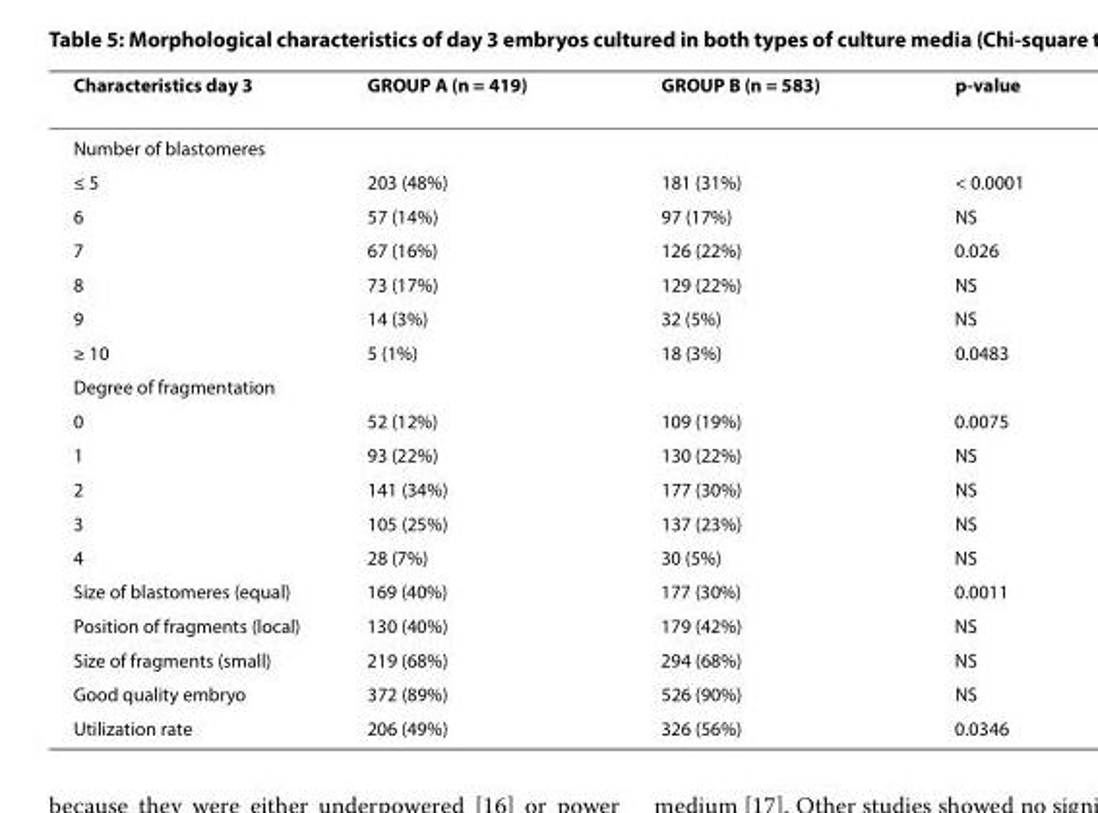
<table><thead><tr><td>Characteristics day 3</td><td>GROUP A (n = 419)</td><td>GROUP B (n = 583)</td><td>p-value</td></tr></thead><tbody><tr><td colspan="4">Number of blastomeres</td></tr><tr><td>≤ 5</td><td>203 (48%)</td><td>181 (31%)</td><td>&lt; 0.0001</td></tr><tr><td>6</td><td>57 (14%)</td><td>97 (17%)</td><td>NS</td></tr><tr><td>7</td><td>67 (16%)</td><td>126 (22%)</td><td>0.026</td></tr><tr><td>8</td><td>73 (17%)</td><td>129 (22%)</td><td>NS</td></tr><tr><td>9</td><td>14 (3%)</td><td>32 (5%)</td><td>NS</td></tr><tr><td>≥ 10</td><td>5 (1%)</td><td>18 (3%)</td><td>0.0483</td></tr><tr><td colspan="4">Degree of fragmentation</td></tr><tr><td>0</td><td>52 (12%)</td><td>109 (19%)</td><td>0.0075</td></tr><tr><td>1</td><td>93 (22%)</td><td>130 (22%)</td><td>NS</td></tr><tr><td>2</td><td>141 (34%)</td><td>177 (30%)</td><td>NS</td></tr><tr><td>3</td><td>105 (25%)</td><td>137 (23%)</td><td>NS</td></tr><tr><td>4</td><td>28 (7%)</td><td>30 (5%)</td><td>NS</td></tr><tr><td>Size of blastomeres (equal)</td><td>169 (40%)</td><td>177 (30%)</td><td>0.0011</td></tr><tr><td>Position of fragments (local)</td><td>130 (40%)</td><td>179 (42%)</td><td>NS</td></tr><tr><td>Size of fragments (small)</td><td>219 (68%)</td><td>294 (68%)</td><td>NS</td></tr><tr><td>Good quality embryo</td><td>372 (89%)</td><td>526 (90%)</td><td>NS</td></tr><tr><td>Utilization rate</td><td>206 (49%)</td><td>326 (56%)</td><td>0.0346</td></tr></tbody></table>